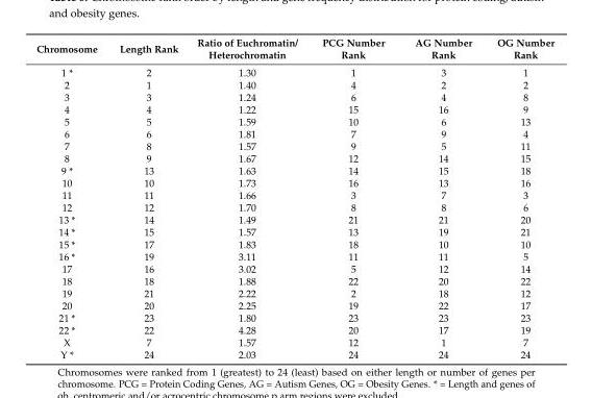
<table><thead><tr><td>Chromosome</td><td>Length Rank</td><td>Ratio of Euchromatin/ Heterochromatin</td><td>PCG Number Rank</td><td>AG Number Rank</td><td>OG Number Rank</td></tr></thead><tbody><tr><td>1 *</td><td>2</td><td>1.30</td><td>1</td><td>3</td><td>1</td></tr><tr><td>2</td><td>1</td><td>1.40</td><td>4</td><td>2</td><td>2</td></tr><tr><td>3</td><td>3</td><td>1.24</td><td>6</td><td>4</td><td>8</td></tr><tr><td>4</td><td>4</td><td>1.22</td><td>15</td><td>16</td><td>9</td></tr><tr><td>5</td><td>5</td><td>1.59</td><td>10</td><td>6</td><td>13</td></tr><tr><td>6</td><td>6</td><td>1.81</td><td>7</td><td>9</td><td>4</td></tr><tr><td>7</td><td>8</td><td>1.57</td><td>9</td><td>5</td><td>11</td></tr><tr><td>8</td><td>9</td><td>1.67</td><td>12</td><td>14</td><td>15</td></tr><tr><td>9 *</td><td>13</td><td>1.63</td><td>14</td><td>15</td><td>18</td></tr><tr><td>10</td><td>10</td><td>1.73</td><td>16</td><td>13</td><td>16</td></tr><tr><td>11</td><td>11</td><td>1.66</td><td>3</td><td>7</td><td>3</td></tr><tr><td>12</td><td>12</td><td>1.70</td><td>8</td><td>8</td><td>6</td></tr><tr><td>13 *</td><td>14</td><td>1.49</td><td>21</td><td>21</td><td>20</td></tr><tr><td>14 *</td><td>15</td><td>1.57</td><td>13</td><td>19</td><td>21</td></tr><tr><td>15 *</td><td>17</td><td>1.83</td><td>18</td><td>10</td><td>10</td></tr><tr><td>16 *</td><td>19</td><td>3.11</td><td>11</td><td>11</td><td>5</td></tr><tr><td>17</td><td>16</td><td>3.02</td><td>5</td><td>12</td><td>14</td></tr><tr><td>18</td><td>18</td><td>1.88</td><td>22</td><td>20</td><td>22</td></tr><tr><td>19</td><td>21</td><td>2.22</td><td>2</td><td>18</td><td>12</td></tr><tr><td>20</td><td>20</td><td>2.25</td><td>19</td><td>22</td><td>17</td></tr><tr><td>21 *</td><td>23</td><td>1.80</td><td>23</td><td>23</td><td>23</td></tr><tr><td>22 *</td><td>22</td><td>4.28</td><td>20</td><td>17</td><td>19</td></tr><tr><td>X</td><td>7</td><td>1.57</td><td>12</td><td>1</td><td>7</td></tr><tr><td>Y *</td><td>24</td><td>2.03</td><td>24</td><td>24</td><td>24</td></tr></tbody></table>